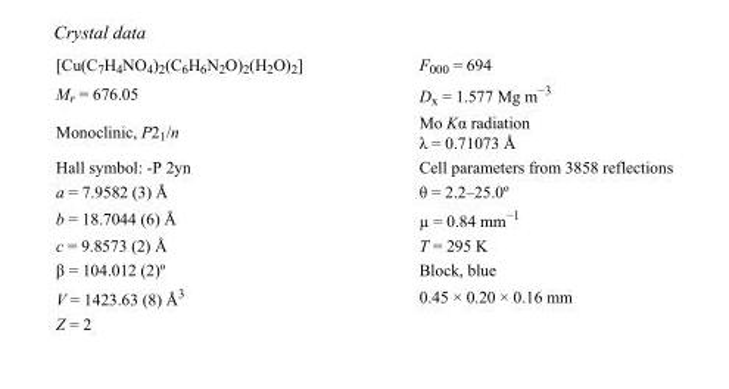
<table><tbody><tr><td>[Cu(C<sub>7</sub>H<sub>4</sub>NO<sub>4</sub>)<sub>2</sub>(C<sub>6</sub>H<sub>6</sub>N<sub>2</sub>O)<sub>2</sub>(H<sub>2</sub>O)<sub>2</sub>]</td><td>F000 = 694</td></tr><tr><td>M<sub>r</sub> = 676.05</td><td>D<sub>x</sub> = 1.577 Mg m<sup>−3</sup></td></tr><tr><td>Monoclinic, P2<sub>1</sub>/n</td><td>Mo Kα radiation λ = 0.71073 Å</td></tr><tr><td>Hall symbol: -P 2yn</td><td>Cell parameters from 3858 reflections</td></tr><tr><td>a = 7.9582 (3) Å</td><td>θ = 2.2–25.0º</td></tr><tr><td>b = 18.7044 (6) Å</td><td>µ = 0.84 mm<sup>−1</sup></td></tr><tr><td>c = 9.8573 (2) Å</td><td>T = 295 K</td></tr><tr><td>β = 104.012 (2)º</td><td>Block, blue</td></tr><tr><td>V = 1423.63 (8) Å<sup>3</sup></td><td>0.45 × 0.20 × 0.16 mm</td></tr><tr><td>Z = 2</td><td></td></tr></tbody></table>